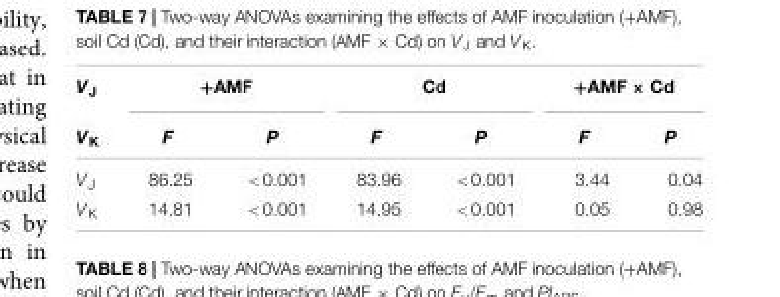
<table><thead><tr><td rowspan="2">V<sub>J</sub> V<sub>K</sub></td><td colspan="2">+AMF</td><td colspan="2">Cd</td><td colspan="2">+AMF × Cd</td></tr><tr><td>F</td><td>P</td><td>F</td><td>P</td><td>F</td><td>P</td></tr></thead><tbody><tr><td>V<sub>J</sub></td><td>86.25</td><td>&lt;0.001</td><td>83.96</td><td>&lt;0.001</td><td>3.44</td><td>0.04</td></tr><tr><td>V<sub>K</sub></td><td>14.81</td><td>&lt;0.001</td><td>14.95</td><td>&lt;0.001</td><td>0.05</td><td>0.98</td></tr></tbody></table>